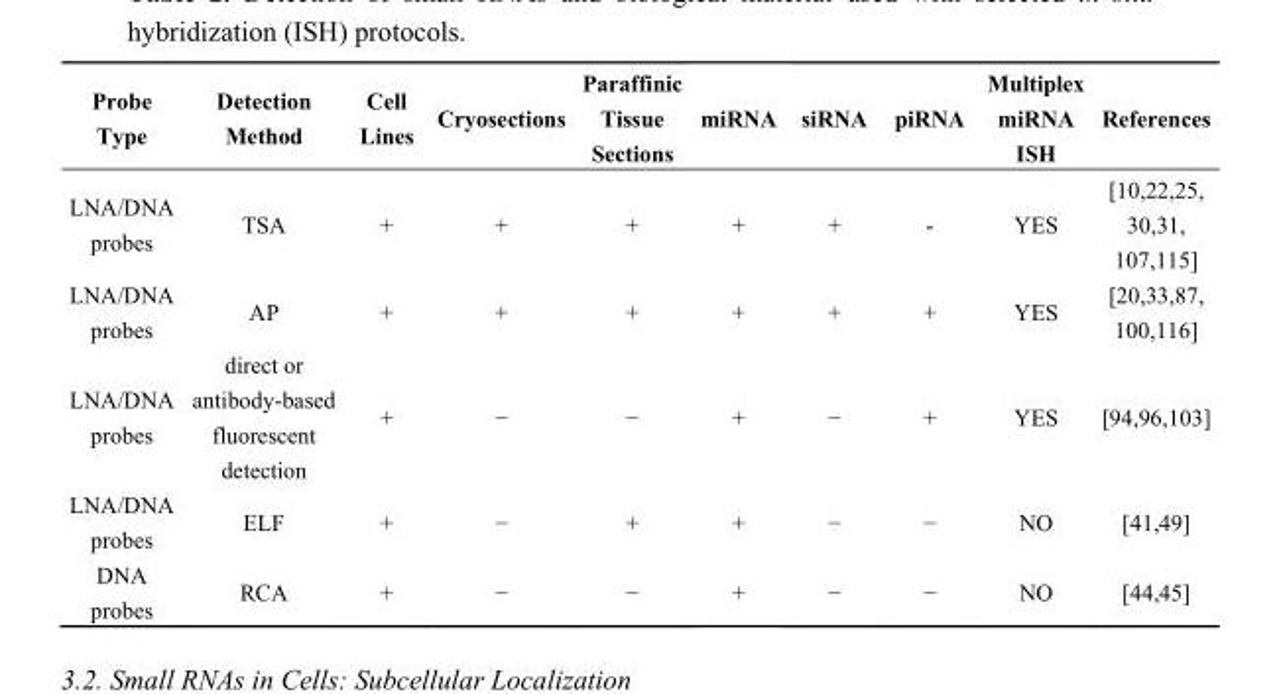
<table><thead><tr><td>Probe Type</td><td>Detection Method</td><td>Cell Lines</td><td>Cryosections</td><td>Paraffinic Tissue Sections</td><td>miRNA</td><td>siRNA</td><td>piRNA</td><td>Multiplex miRNA ISH</td><td>References</td></tr></thead><tbody><tr><td>LNA/DNA probes</td><td>TSA</td><td>+</td><td>+</td><td>+</td><td>+</td><td>+</td><td>-</td><td>YES</td><td>[10,22,25, 30,31, 107,115]</td></tr><tr><td>LNA/DNA probes</td><td>AP</td><td>+</td><td>+</td><td>+</td><td>+</td><td>+</td><td>+</td><td>YES</td><td>[20,33,87, 100,116]</td></tr><tr><td>LNA/DNA probes</td><td>direct or antibody-based fluorescent detection</td><td>+</td><td>−</td><td>−</td><td>+</td><td>−</td><td>+</td><td>YES</td><td>[94,96,103]</td></tr><tr><td>LNA/DNA probes</td><td>ELF</td><td>+</td><td>−</td><td>+</td><td>+</td><td>−</td><td>−</td><td>NO</td><td>[41,49]</td></tr><tr><td>DNA probes</td><td>RCA</td><td>+</td><td>−</td><td>−</td><td>+</td><td>−</td><td>−</td><td>NO</td><td>[44,45]</td></tr></tbody></table>